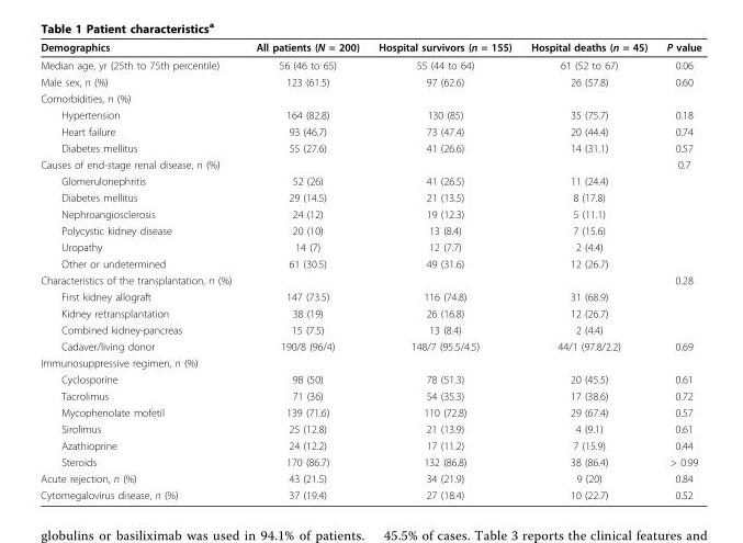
<table><thead><tr><td>Demographics</td><td>All patients (N = 200)</td><td>Hospital survivors (n = 155)</td><td>Hospital deaths (n = 45)</td><td>P value</td></tr></thead><tbody><tr><td>Median age, yr (25th to 75th percentile)</td><td>56 (46 to 65)</td><td>55 (44 to 64)</td><td>61 (52 to 67)</td><td>0.06</td></tr><tr><td>Male sex, n (%)</td><td>123 (61.5)</td><td>97 (62.6)</td><td>26 (57.8)</td><td>0.60</td></tr><tr><td colspan="5">Comorbidities, n (%)</td></tr><tr><td>Hypertension</td><td>164 (82.8)</td><td>130 (85)</td><td>35 (75.7)</td><td>0.18</td></tr><tr><td>Heart failure</td><td>93 (46.7)</td><td>73 (47.4)</td><td>20 (44.4)</td><td>0.74</td></tr><tr><td>Diabetes mellitus</td><td>55 (27.6)</td><td>41 (26.6)</td><td>14 (31.1)</td><td>0.57</td></tr><tr><td>Causes of end-stage renal disease, n (%)</td><td></td><td></td><td></td><td>0.7</td></tr><tr><td>Glomerulonephritis</td><td>52 (26)</td><td>41 (26.5)</td><td>11 (24.4)</td><td></td></tr><tr><td>Diabetes mellitus</td><td>29 (14.5)</td><td>21 (13.5)</td><td>8 (17.8)</td><td></td></tr><tr><td>Nephroangiosclerosis</td><td>24 (12)</td><td>19 (12.3)</td><td>5 (11.1)</td><td></td></tr><tr><td>Polycystic kidney disease</td><td>20 (10)</td><td>13 (8.4)</td><td>7 (15.6)</td><td></td></tr><tr><td>Uropathy</td><td>14 (7)</td><td>12 (7.7)</td><td>2 (4.4)</td><td></td></tr><tr><td>Other or undetermined</td><td>61 (30.5)</td><td>49 (31.6)</td><td>12 (26.7)</td><td></td></tr><tr><td>Characteristics of the transplantation, n (%)</td><td></td><td></td><td></td><td>0.28</td></tr><tr><td>First kidney allograft</td><td>147 (73.5)</td><td>116 (74.8)</td><td>31 (68.9)</td><td></td></tr><tr><td>Kidney retransplantation</td><td>38 (19)</td><td>26 (16.8)</td><td>12 (26.7)</td><td></td></tr><tr><td>Combined kidney-pancreas</td><td>15 (7.5)</td><td>13 (8.4)</td><td>2 (4.4)</td><td></td></tr><tr><td>Cadaver/living donor</td><td>190/8 (96/4)</td><td>148/7 (95.5/4.5)</td><td>44/1 (97.8/2.2)</td><td>0.69</td></tr><tr><td colspan="5">Immunosuppressive regimen, n (%)</td></tr><tr><td>Cyclosporine</td><td>98 (50)</td><td>78 (51.3)</td><td>20 (45.5)</td><td>0.61</td></tr><tr><td>Tacrolimus</td><td>71 (36)</td><td>54 (35.3)</td><td>17 (38.6)</td><td>0.72</td></tr><tr><td>Mycophenolate mofetil</td><td>139 (71.6)</td><td>110 (72.8)</td><td>29 (67.4)</td><td>0.57</td></tr><tr><td>Sirolimus</td><td>25 (12.8)</td><td>21 (13.9)</td><td>4 (9.1)</td><td>0.61</td></tr><tr><td>Azathioprine</td><td>24 (12.2)</td><td>17 (11.2)</td><td>7 (15.9)</td><td>0.44</td></tr><tr><td>Steroids</td><td>170 (86.7)</td><td>132 (86.8)</td><td>38 (86.4)</td><td>&gt; 0.99</td></tr><tr><td>Acute rejection, n (%)</td><td>43 (21.5)</td><td>34 (21.9)</td><td>9 (20)</td><td>0.84</td></tr><tr><td>Cytomegalovirus disease, n (%)</td><td>37 (19.4)</td><td>27 (18.4)</td><td>10 (22.7)</td><td>0.52</td></tr></tbody></table>